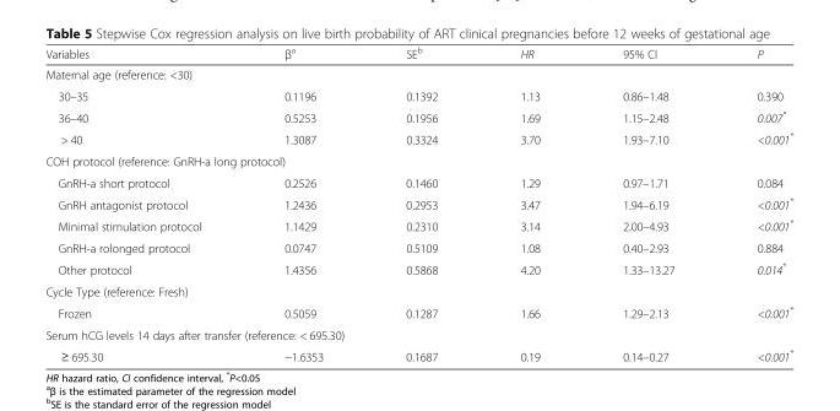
<table><thead><tr><td>Variables</td><td>β<sup>a</sup></td><td>SE<sup>b</sup></td><td>HR</td><td>95% CI</td><td>P</td></tr></thead><tbody><tr><td colspan="6">Maternal age (reference: &lt;30)</td></tr><tr><td>30–35</td><td>0.1196</td><td>0.1392</td><td>1.13</td><td>0.86–1.48</td><td>0.390</td></tr><tr><td>36–40</td><td>0.5253</td><td>0.1956</td><td>1.69</td><td>1.15–2.48</td><td>0.007*</td></tr><tr><td>&gt; 40</td><td>1.3087</td><td>0.3324</td><td>3.70</td><td>1.93–7.10</td><td>&lt;0.001*</td></tr><tr><td colspan="6">COH protocol (reference: GnRH-a long protocol)</td></tr><tr><td>GnRH-a short protocol</td><td>0.2526</td><td>0.1460</td><td>1.29</td><td>0.97–1.71</td><td>0.084</td></tr><tr><td>GnRH antagonist protocol</td><td>1.2436</td><td>0.2953</td><td>3.47</td><td>1.94–6.19</td><td>&lt;0.001*</td></tr><tr><td>Minimal stimulation protocol</td><td>1.1429</td><td>0.2310</td><td>3.14</td><td>2.00–4.93</td><td>&lt;0.001*</td></tr><tr><td>GnRH-a rolonged protocol</td><td>0.0747</td><td>0.5109</td><td>1.08</td><td>0.40–2.93</td><td>0.884</td></tr><tr><td>Other protocol</td><td>1.4356</td><td>0.5868</td><td>4.20</td><td>1.33–13.27</td><td>0.014*</td></tr><tr><td colspan="6">Cycle Type (reference: Fresh)</td></tr><tr><td>Frozen</td><td>0.5059</td><td>0.1287</td><td>1.66</td><td>1.29–2.13</td><td>&lt;0.001*</td></tr><tr><td colspan="6">Serum hCG levels 14 days after transfer (reference: &lt; 695.30)</td></tr><tr><td>≥ 695.30</td><td>−1.6353</td><td>0.1687</td><td>0.19</td><td>0.14–0.27</td><td>&lt;0.001*</td></tr></tbody></table>